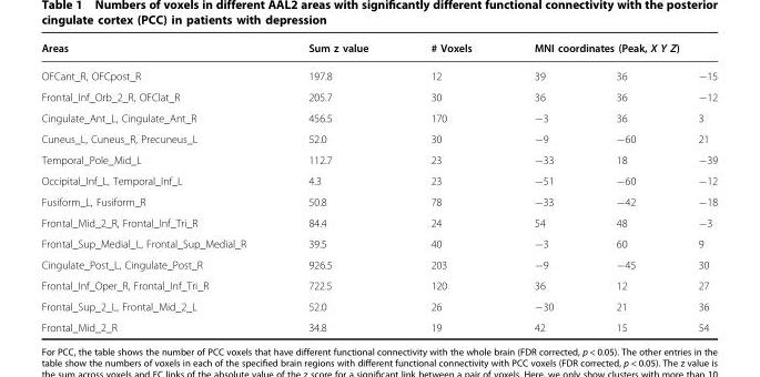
<table><thead><tr><td rowspan="2">Areas OFCant_R, OFCpost_R</td><td rowspan="2">Sum z value 197.8</td><td rowspan="2"># Voxels 12</td><td colspan="3">MNI coordinates (Peak, X Y Z)</td></tr><tr><td>39</td><td>36</td><td>−15</td></tr></thead><tbody><tr><td>Frontal_Inf_Orb_2_R, OFClat_R</td><td>205.7</td><td>30</td><td>36</td><td>36</td><td>−12</td></tr><tr><td>Cingulate_Ant_L, Cingulate_Ant_R</td><td>456.5</td><td>170</td><td>−3</td><td>36</td><td>3</td></tr><tr><td>Cuneus_L, Cuneus_R, Precuneus_L</td><td>52.0</td><td>30</td><td>−9</td><td>−60</td><td>21</td></tr><tr><td>Temporal_Pole_Mid_L</td><td>112.7</td><td>23</td><td>−33</td><td>18</td><td>−39</td></tr><tr><td>Occipital_Inf_L, Temporal_Inf_L</td><td>4.3</td><td>23</td><td>−51</td><td>−60</td><td>−12</td></tr><tr><td>Fusiform_L, Fusiform_R</td><td>50.8</td><td>78</td><td>−33</td><td>−42</td><td>−18</td></tr><tr><td>Frontal_Mid_2_R, Frontal_Inf_Tri_R</td><td>84.4</td><td>24</td><td>54</td><td>48</td><td>−3</td></tr><tr><td>Frontal_Sup_Medial_L, Frontal_Sup_Medial_R</td><td>39.5</td><td>40</td><td>−3</td><td>60</td><td>9</td></tr><tr><td>Cingulate_Post_L, Cingulate_Post_R</td><td>926.5</td><td>203</td><td>−9</td><td>−45</td><td>30</td></tr><tr><td>Frontal_Inf_Oper_R, Frontal_Inf_Tri_R</td><td>722.5</td><td>120</td><td>36</td><td>12</td><td>27</td></tr><tr><td>Frontal_Sup_2_L, Frontal_Mid_2_L</td><td>52.0</td><td>26</td><td>−30</td><td>21</td><td>36</td></tr><tr><td>Frontal_Mid_2_R</td><td>34.8</td><td>19</td><td>42</td><td>15</td><td>54</td></tr></tbody></table>